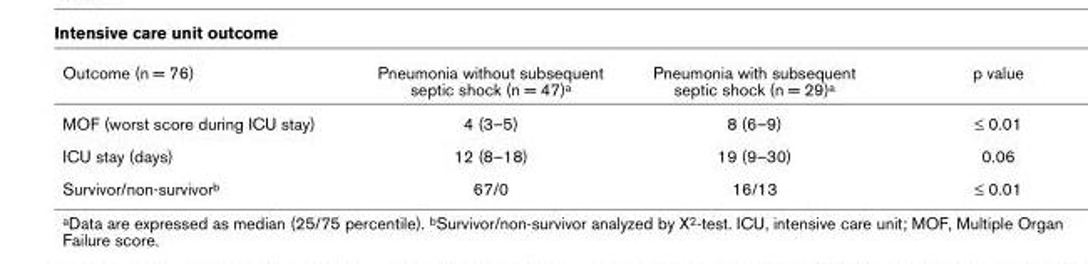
<table><thead><tr><td>Outcome (n = 76)</td><td>Pneumonia without subsequent septic shock (n = 47)a</td><td>Pneumonia with subsequent septic shock (n = 29)a</td><td>p value</td></tr></thead><tbody><tr><td>MOF (worst score during ICU stay)</td><td>4 (3–5)</td><td>8 (6–9)</td><td>≤ 0.01</td></tr><tr><td>ICU stay (days)</td><td>12 (8–18)</td><td>19 (9–30)</td><td>0.06</td></tr><tr><td>Survivor/non-survivorb</td><td>67/0</td><td>16/13</td><td>≤ 0.01</td></tr></tbody></table>